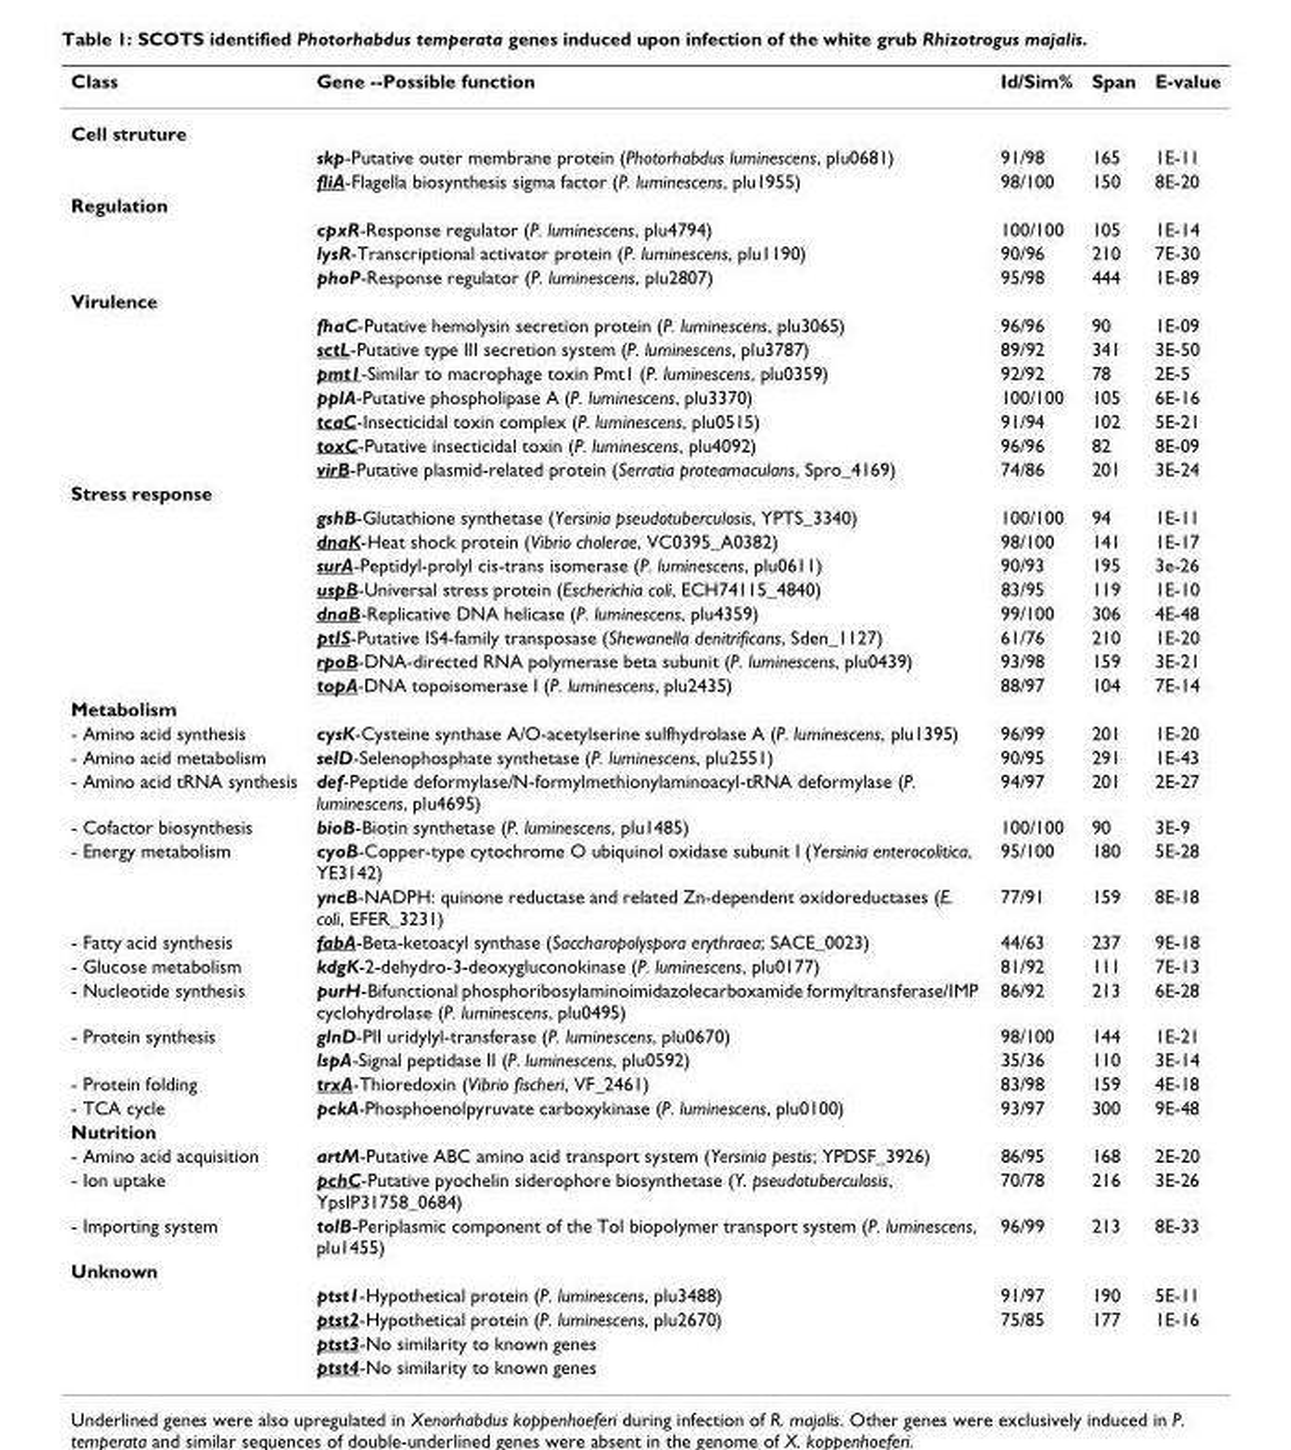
<table><thead><tr><td>Class</td><td>Gene --Possible function</td><td>Id/Sim%</td><td>Span</td><td>E-value</td></tr></thead><tbody><tr><td colspan="5">Cell struture</td></tr><tr><td></td><td>skp-Putative outer membrane protein (Photorhabdus luminescens, plu0681)</td><td>91/98</td><td>165</td><td>1E-11</td></tr><tr><td></td><td>fliA-Flagella biosynthesis sigma factor (P. luminescens, plu1955)</td><td>98/100</td><td>150</td><td>8E-20</td></tr><tr><td colspan="5">Regulation</td></tr><tr><td></td><td>cpxR-Response regulator (P. luminescens, plu4794)</td><td>100/100</td><td>105</td><td>1E-14</td></tr><tr><td></td><td>lysR-Transcriptional activator protein (P. luminescens, plu1190)</td><td>90/96</td><td>210</td><td>7E-30</td></tr><tr><td></td><td>phoP-Response regulator (P. luminescens, plu2807)</td><td>95/98</td><td>444</td><td>1E-89</td></tr><tr><td colspan="5">Virulence</td></tr><tr><td></td><td>fhaC-Putative hemolysin secretion protein (P. luminescens, plu3065)</td><td>96/96</td><td>90</td><td>1E-09</td></tr><tr><td></td><td>sctL-Putative type III secretion system (P. luminescens, plu3787)</td><td>89/92</td><td>341</td><td>3E-50</td></tr><tr><td></td><td>pmt1-Similar to macrophage toxin Pmt1 (P. luminescens, plu0359)</td><td>92/92</td><td>78</td><td>2E-5</td></tr><tr><td></td><td>pplA-Putative phospholipase A (P. luminescens, plu3370)</td><td>100/100</td><td>105</td><td>6E-16</td></tr><tr><td></td><td>tcaC-Insecticidal toxin complex (P. luminescens, plu0515)</td><td>91/94</td><td>102</td><td>5E-21</td></tr><tr><td></td><td>toxC-Putative insecticidal toxin (P. luminescens, plu4092)</td><td>96/96</td><td>82</td><td>8E-09</td></tr><tr><td></td><td>virB-Putative plasmid-related protein (Serratia proteamaculans, Spro_4169)</td><td>74/86</td><td>201</td><td>3E-24</td></tr><tr><td colspan="5">Stress response</td></tr><tr><td></td><td>gshB-Glutathione synthetase (Yersinia pseudotuberculosis, YPTS_3340)</td><td>100/100</td><td>94</td><td>1E-11</td></tr><tr><td></td><td>dnaK-Heat shock protein (Vibrio cholerae, VC0395_A0382)</td><td>98/100</td><td>141</td><td>1E-17</td></tr><tr><td></td><td>surA-Peptidyl-prolyl cis-trans isomerase (P. luminescens, plu0611)</td><td>90/93</td><td>195</td><td>3e-26</td></tr><tr><td></td><td>uspB-Universal stress protein (Escherichia coli, ECH74115_4840)</td><td>83/95</td><td>119</td><td>1E-10</td></tr><tr><td></td><td>dnaB-Replicative DNA helicase (P. luminescens, plu4359)</td><td>99/100</td><td>306</td><td>4E-48</td></tr><tr><td></td><td>ptIS-Putative IS4-family transposase (Shewanella denitrificans, Sden_1127)</td><td>61/76</td><td>210</td><td>1E-20</td></tr><tr><td></td><td>rpoB-DNA-directed RNA polymerase beta subunit (P. luminescens, plu0439)</td><td>93/98</td><td>159</td><td>3E-21</td></tr><tr><td></td><td>topA-DNA topoisomerase I (P. luminescens, plu2435)</td><td>88/97</td><td>104</td><td>7E-14</td></tr><tr><td colspan="5">Metabolism</td></tr><tr><td>- Amino acid synthesis</td><td>cysK-Cysteine synthase A/O-acetylserine sulfhydrolase A (P. luminescens, plu1395)</td><td>96/99</td><td>201</td><td>1E-20</td></tr><tr><td>- Amino acid metabolism</td><td>selD-Selenophosphate synthetase (P. luminescens, plu2551)</td><td>90/95</td><td>291</td><td>1E-43</td></tr><tr><td>- Amino acid tRNA synthesis</td><td>def-Peptide deformylase/N-formylmethionylaminoacyl-tRNA deformylase (P. luminescens, plu4695)</td><td>94/97</td><td>201</td><td>2E-27</td></tr><tr><td>- Cofactor biosynthesis</td><td>bioB-Biotin synthetase (P. luminescens, plu1485)</td><td>100/100</td><td>90</td><td>3E-9</td></tr><tr><td rowspan="2">- Energy metabolism</td><td>cyoB-Copper-type cytochrome O ubiquinol oxidase subunit I (Yersinia enterocolitica, YE3142)</td><td>95/100</td><td>180</td><td>5E-28</td></tr><tr><td>yncB-NADPH: quinone reductase and related Zn-dependent oxidoreductases (E. coli, EFER_3231)</td><td>77/91</td><td>159</td><td>8E-18</td></tr><tr><td>- Fatty acid synthesis</td><td>fabA-Beta-ketoacyl synthase (Saccharopolyspora erythraea; SACE_0023)</td><td>44/63</td><td>237</td><td>9E-18</td></tr><tr><td>- Glucose metabolism</td><td>kdgK-2-dehydro-3-deoxygluconokinase (P. luminescens, plu0177)</td><td>81/92</td><td>111</td><td>7E-13</td></tr><tr><td>- Nucleotide synthesis</td><td>purH-Bifunctional phosphoribosylaminoimidazolecarboxamide formyltransferase/IMP cyclohydrolase (P. luminescens, plu0495)</td><td>86/92</td><td>213</td><td>6E-28</td></tr><tr><td rowspan="2">- Protein synthesis</td><td>glnD-PII uridylyl-transferase (P. luminescens, plu0670)</td><td>98/100</td><td>144</td><td>1E-21</td></tr><tr><td>lspA-Signal peptidase II (P. luminescens, plu0592)</td><td>35/36</td><td>110</td><td>3E-14</td></tr><tr><td>- Protein folding</td><td>trxA-Thioredoxin (Vibrio fischeri, VF_2461)</td><td>83/98</td><td>159</td><td>4E-18</td></tr><tr><td>- TCA cycle</td><td>pckA-Phosphoenolpyruvate carboxykinase (P. luminescens, plu0100)</td><td>93/97</td><td>300</td><td>9E-48</td></tr><tr><td colspan="5">Nutrition</td></tr><tr><td>- Amino acid acquisition</td><td>artM-Putative ABC amino acid transport system (Yersinia pestis; YPDSF_3926)</td><td>86/95</td><td>168</td><td>2E-20</td></tr><tr><td>- Ion uptake</td><td>pchC-Putative pyochelin siderophore biosynthetase (Y. pseudotuberculosis, YpsIP31758_0684)</td><td>70/78</td><td>216</td><td>3E-26</td></tr><tr><td>- Importing system</td><td>tolB-Periplasmic component of the Tol biopolymer transport system (P. luminescens, plu1455)</td><td>96/99</td><td>213</td><td>8E-33</td></tr><tr><td colspan="5">Unknown</td></tr><tr><td></td><td>ptst1-Hypothetical protein (P. luminescens, plu3488)</td><td>91/97</td><td>190</td><td>5E-11</td></tr><tr><td></td><td>ptst2-Hypothetical protein (P. luminescens, plu2670)</td><td>75/85</td><td>177</td><td>1E-16</td></tr><tr><td></td><td>ptst3-No similarity to known genes</td><td></td><td></td><td></td></tr><tr><td></td><td>ptst4-No similarity to known genes</td><td></td><td></td><td></td></tr></tbody></table>